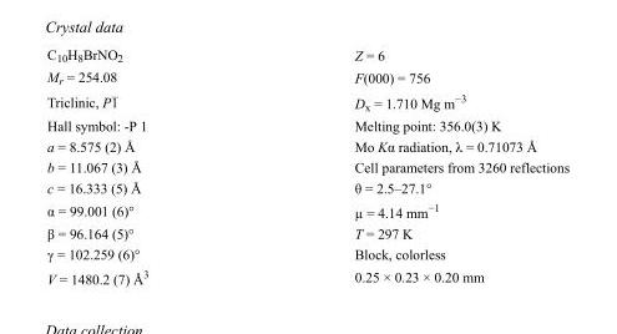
<table><tbody><tr><td>C<sub>10</sub>H<sub>8</sub>BrNO<sub>2</sub></td><td>Z = 6</td></tr><tr><td>M<sub>r</sub> = 254.08</td><td>F(000) = 756</td></tr><tr><td>Triclinic, P1</td><td>D<sub>x</sub> = 1.710 Mg m<sup>−3</sup></td></tr><tr><td>Hall symbol: -P 1</td><td>Melting point: 356.0(3) K</td></tr><tr><td>a = 8.575 (2) Å</td><td>Mo Kα radiation, λ = 0.71073 Å</td></tr><tr><td>b = 11.067 (3) Å</td><td>Cell parameters from 3260 reflections</td></tr><tr><td>c = 16.333 (5) Å</td><td>θ = 2.5–27.1°</td></tr><tr><td>α = 99.001 (6)°</td><td>µ = 4.14 mm<sup>−1</sup></td></tr><tr><td>β = 96.164 (5)°</td><td>T = 297 K</td></tr><tr><td>γ = 102.259 (6)°</td><td>Block, colorless</td></tr><tr><td>V = 1480.2 (7) Å<sup>3</sup></td><td>0.25 × 0.23 × 0.20 mm</td></tr></tbody></table>